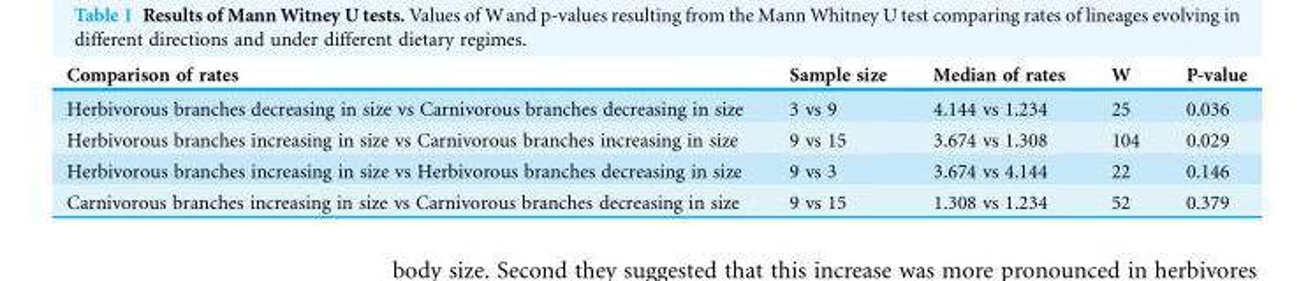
<table><thead><tr><td>Comparison of rates</td><td>Sample size</td><td>Median of rates</td><td>W</td><td>P-value</td></tr></thead><tbody><tr><td>Herbivorous branches decreasing in size vs Carnivorous branches decreasing in size</td><td>3 vs 9</td><td>4.144 vs 1.234</td><td>25</td><td>0.036</td></tr><tr><td>Herbivorous branches increasing in size vs Carnivorous branches increasing in size</td><td>9 vs 15</td><td>3.674 vs 1.308</td><td>104</td><td>0.029</td></tr><tr><td>Herbivorous branches increasing in size vs Herbivorous branches decreasing in size</td><td>9 vs 3</td><td>3.674 vs 4.144</td><td>22</td><td>0.146</td></tr><tr><td>Carnivorous branches increasing in size vs Carnivorous branches decreasing in size</td><td>9 vs 15</td><td>1.308 vs 1.234</td><td>52</td><td>0.379</td></tr></tbody></table>